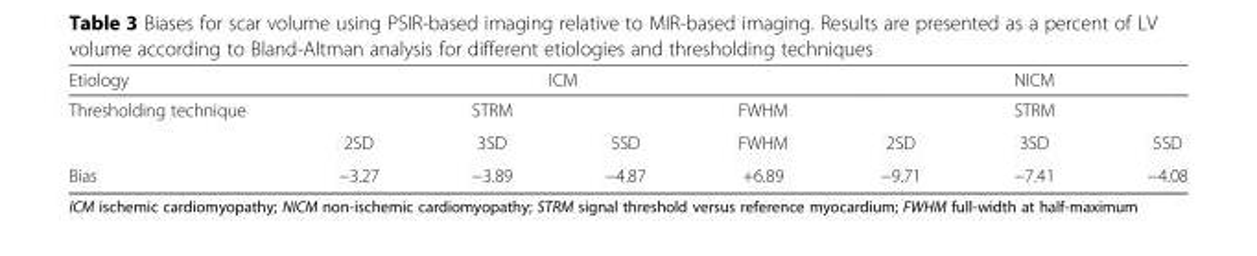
<table><thead><tr><td rowspan="3">Etiology Thresholding technique</td><td colspan="4">ICM</td><td rowspan="2" colspan="3">NICM STRM</td></tr><tr><td colspan="3">STRM</td><td rowspan="2">FWHM FWHM</td></tr><tr><td>2SD</td><td>3SD</td><td>5SD</td><td>2SD</td><td>3SD</td><td>5SD</td></tr></thead><tbody><tr><td>Bias</td><td>−3.27</td><td>−3.89</td><td>−4.87</td><td>+6.89</td><td>−9.71</td><td>−7.41</td><td>−4.08</td></tr></tbody></table>